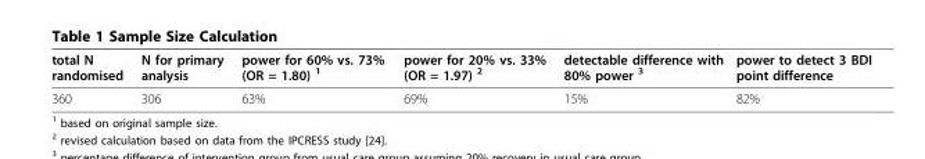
<table><thead><tr><td>total N randomised</td><td>N for primary analysis</td><td>power for 60% vs. 73% (OR = 1.80) <sup>1</sup></td><td>power for 20% vs. 33% (OR = 1.97) <sup>2</sup></td><td>detectable difference with 80% power <sup>3</sup></td><td>power to detect 3 BDI point difference</td></tr></thead><tbody><tr><td>360</td><td>306</td><td>63%</td><td>69%</td><td>15%</td><td>82%</td></tr></tbody></table>